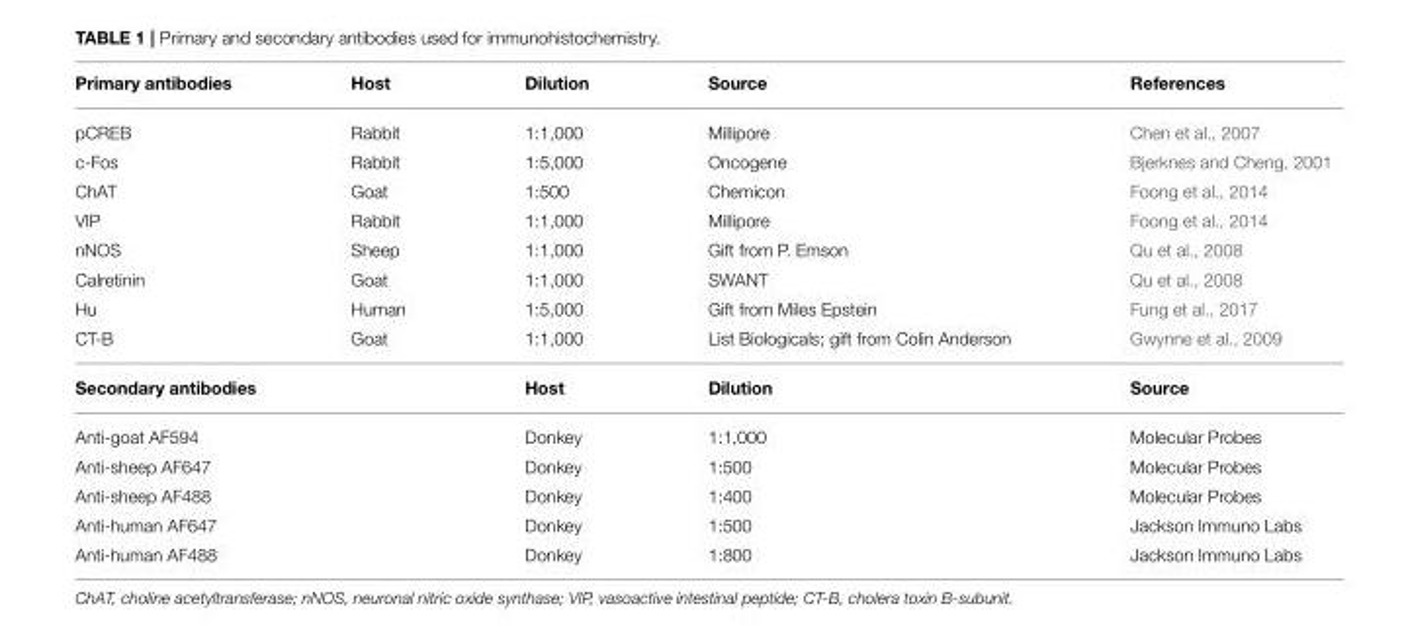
<table><thead><tr><td>Primary antibodies</td><td>Host</td><td>Dilution</td><td>Source</td><td>References</td></tr></thead><tbody><tr><td>pCREB</td><td>Rabbit</td><td>1:1,000</td><td>Millipore</td><td>Chen et al., 2007</td></tr><tr><td>c-Fos</td><td>Rabbit</td><td>1:5,000</td><td>Oncogene</td><td>Bjerknes and Cheng, 2001</td></tr><tr><td>ChAT</td><td>Goat</td><td>1:500</td><td>Chemicon</td><td>Foong et al., 2014</td></tr><tr><td>VIP</td><td>Rabbit</td><td>1:1,000</td><td>Millipore</td><td>Foong et al., 2014</td></tr><tr><td>nNOS</td><td>Sheep</td><td>1:1,000</td><td>Gift from P. Emson</td><td>Qu et al., 2008</td></tr><tr><td>Calretinin</td><td>Goat</td><td>1:1,000</td><td>SWANT</td><td>Qu et al., 2008</td></tr><tr><td>Hu</td><td>Human</td><td>1:5,000</td><td>Gift from Miles Epstein</td><td>Fung et al., 2017</td></tr><tr><td>CT-B</td><td>Goat</td><td>1:1,000</td><td>List Biologicals; gift from Colin Anderson</td><td>Gwynne et al., 2009</td></tr><tr><td colspan="2">Secondary antibodies</td><td>Host</td><td>Dilution</td><td>Source</td></tr><tr><td>Anti-goat AF594</td><td></td><td>Donkey</td><td>1:1,000</td><td>Molecular Probes</td></tr><tr><td>Anti-sheep AF647</td><td></td><td>Donkey</td><td>1:500</td><td>Molecular Probes</td></tr><tr><td>Anti-sheep AF488</td><td></td><td>Donkey</td><td>1:400</td><td>Molecular Probes</td></tr><tr><td>Anti-human AF647</td><td></td><td>Donkey</td><td>1:500</td><td>Jackson Immuno Labs</td></tr><tr><td>Anti-human AF488</td><td></td><td>Donkey</td><td>1:800</td><td>Jackson Immuno Labs</td></tr></tbody></table>